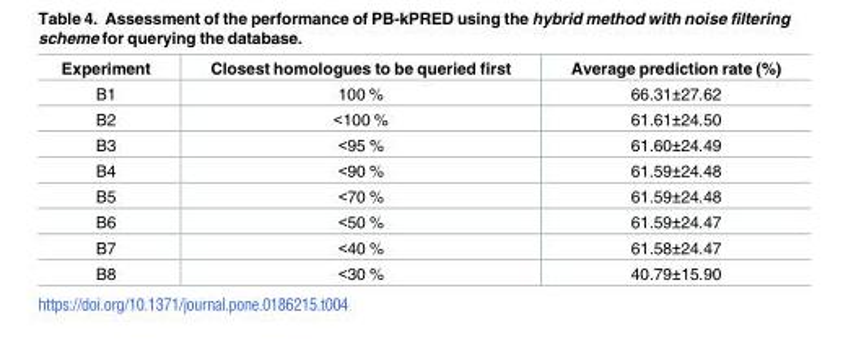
<table><thead><tr><td>Experiment</td><td>Closest homologues to be queried first</td><td>Average prediction rate (%)</td></tr></thead><tbody><tr><td>B1</td><td>100 %</td><td>66.31±27.62</td></tr><tr><td>B2</td><td>&lt;100 %</td><td>61.61±24.50</td></tr><tr><td>B3</td><td>&lt;95 %</td><td>61.60±24.49</td></tr><tr><td>B4</td><td>&lt;90 %</td><td>61.59±24.48</td></tr><tr><td>B5</td><td>&lt;70 %</td><td>61.59±24.48</td></tr><tr><td>B6</td><td>&lt;50 %</td><td>61.59±24.47</td></tr><tr><td>B7</td><td>&lt;40 %</td><td>61.58±24.47</td></tr><tr><td>B8</td><td>&lt;30 %</td><td>40.79±15.90</td></tr></tbody></table>